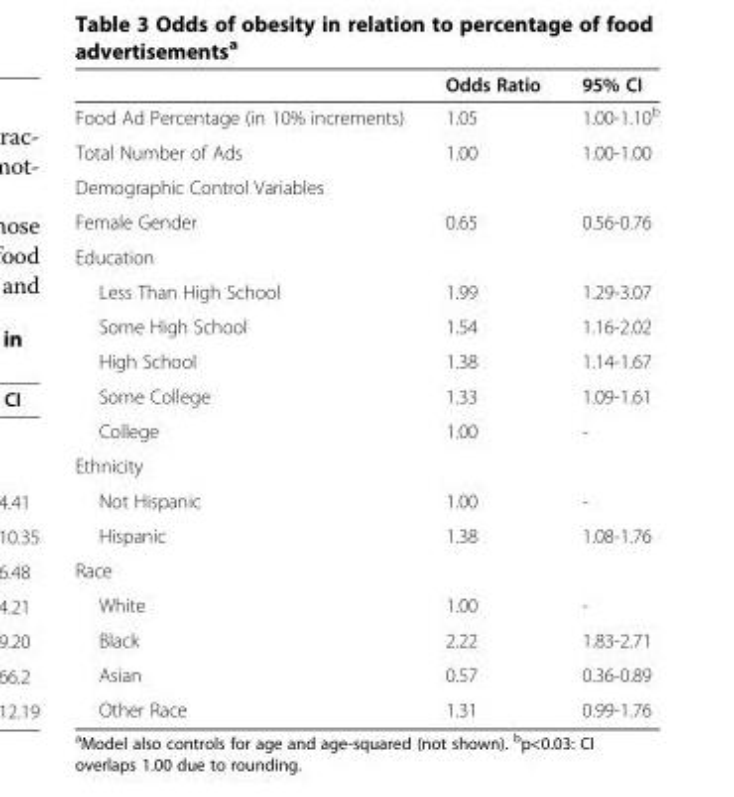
<table><thead><tr><td></td><td>Odds Ratio</td><td>95% CI</td></tr></thead><tbody><tr><td>Food Ad Percentage (in 10% increments)</td><td>1.05</td><td>1.00-1.10<sup>b</sup></td></tr><tr><td>Total Number of Ads</td><td>1.00</td><td>1.00-1.00</td></tr><tr><td colspan="3">Demographic Control Variables</td></tr><tr><td>Female Gender</td><td>0.65</td><td>0.56-0.76</td></tr><tr><td colspan="3">Education</td></tr><tr><td>Less Than High School</td><td>1.99</td><td>1.29-3.07</td></tr><tr><td>Some High School</td><td>1.54</td><td>1.16-2.02</td></tr><tr><td>High School</td><td>1.38</td><td>1.14-1.67</td></tr><tr><td>Some College</td><td>1.33</td><td>1.09-1.61</td></tr><tr><td>College</td><td>1.00</td><td>-</td></tr><tr><td colspan="3">Ethnicity</td></tr><tr><td>Not Hispanic</td><td>1.00</td><td>-</td></tr><tr><td>Hispanic</td><td>1.38</td><td>1.08-1.76</td></tr><tr><td colspan="3">Race</td></tr><tr><td>White</td><td>1.00</td><td>-</td></tr><tr><td>Black</td><td>2.22</td><td>1.83-2.71</td></tr><tr><td>Asian</td><td>0.57</td><td>0.36-0.89</td></tr><tr><td>Other Race</td><td>1.31</td><td>0.99-1.76</td></tr></tbody></table>